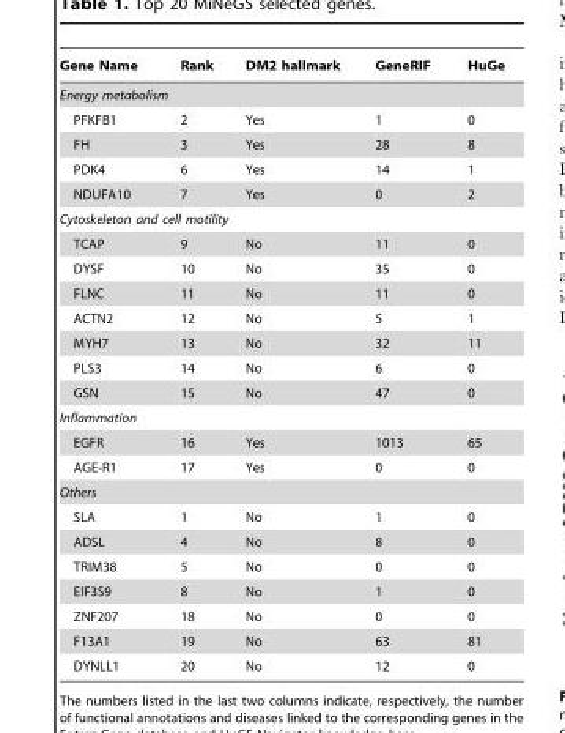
<table><thead><tr><td>Gene Name</td><td>Rank</td><td>DM2 hallmark</td><td>GeneRIF</td><td>HuGe</td></tr></thead><tbody><tr><td colspan="5">Energy metabolism</td></tr><tr><td>PFKFB1</td><td>2</td><td>Yes</td><td>1</td><td>0</td></tr><tr><td>FH</td><td>3</td><td>Yes</td><td>28</td><td>8</td></tr><tr><td>PDK4</td><td>6</td><td>Yes</td><td>14</td><td>1</td></tr><tr><td>NDUFA10</td><td>7</td><td>Yes</td><td>0</td><td>2</td></tr><tr><td colspan="5">Cytoskeleton and cell motility</td></tr><tr><td>TCAP</td><td>9</td><td>No</td><td>11</td><td>0</td></tr><tr><td>DYSF</td><td>10</td><td>No</td><td>35</td><td>0</td></tr><tr><td>FLNC</td><td>11</td><td>No</td><td>11</td><td>0</td></tr><tr><td>ACTN2</td><td>12</td><td>No</td><td>5</td><td>1</td></tr><tr><td>MYH7</td><td>13</td><td>No</td><td>32</td><td>11</td></tr><tr><td>PLS3</td><td>14</td><td>No</td><td>6</td><td>0</td></tr><tr><td>GSN</td><td>15</td><td>No</td><td>47</td><td>0</td></tr><tr><td colspan="5">Inflammation</td></tr><tr><td>EGFR</td><td>16</td><td>Yes</td><td>1013</td><td>65</td></tr><tr><td>AGE-R1</td><td>17</td><td>Yes</td><td>0</td><td>0</td></tr><tr><td colspan="5">Others</td></tr><tr><td>SLA</td><td>1</td><td>No</td><td>1</td><td>0</td></tr><tr><td>ADSL</td><td>4</td><td>No</td><td>8</td><td>0</td></tr><tr><td>TRIM38</td><td>5</td><td>No</td><td>0</td><td>0</td></tr><tr><td>EIF3S9</td><td>8</td><td>No</td><td>1</td><td>0</td></tr><tr><td>ZNF207</td><td>18</td><td>No</td><td>0</td><td>0</td></tr><tr><td>F13A1</td><td>19</td><td>No</td><td>63</td><td>81</td></tr><tr><td>DYNLL1</td><td>20</td><td>No</td><td>12</td><td>0</td></tr></tbody></table>